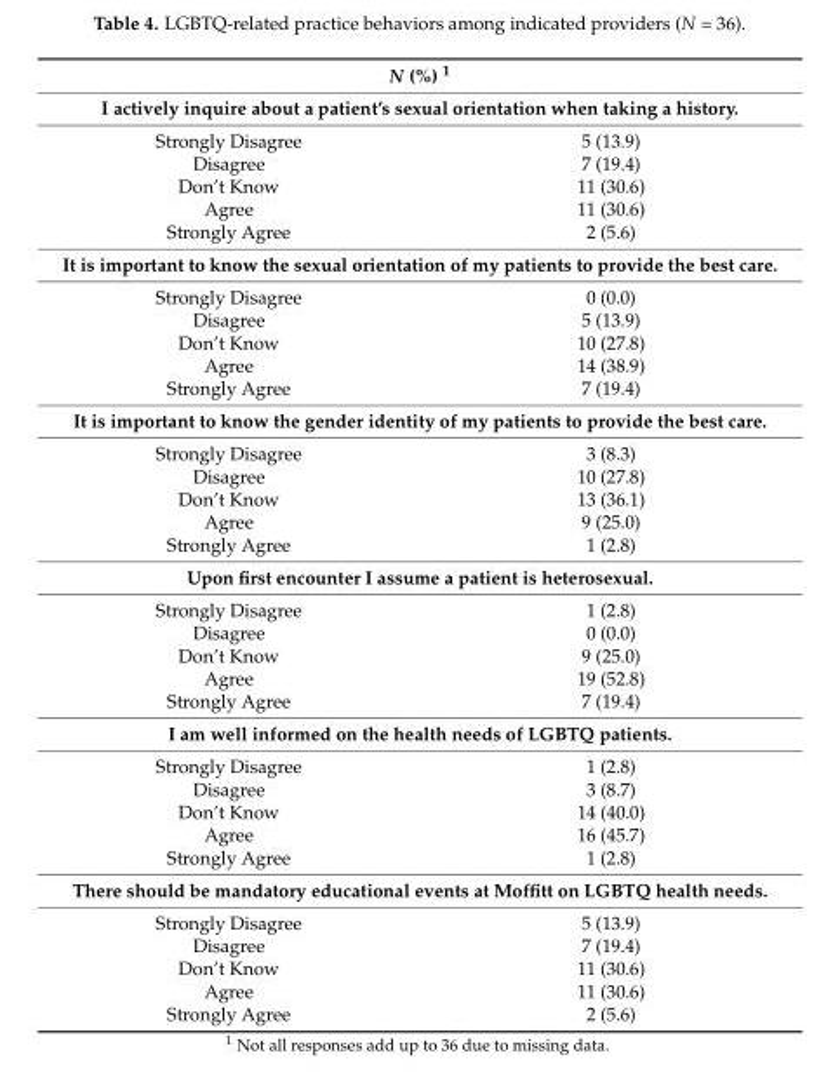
<table><thead><tr><td rowspan="2" colspan="2">N (%) <sup>1</sup> I actively inquire about a patient’s sexual orientation when taking a history.</td></tr><tr></tr><tr><td>Strongly Disagree</td><td>5 (13.9)</td></tr></thead><tbody><tr><td>Disagree</td><td>7 (19.4)</td></tr><tr><td>Don’t Know</td><td>11 (30.6)</td></tr><tr><td>Agree</td><td>11 (30.6)</td></tr><tr><td>Strongly Agree</td><td>2 (5.6)</td></tr><tr><td colspan="2">It is important to know the sexual orientation of my patients to provide the best care.</td></tr><tr><td>Strongly Disagree</td><td>0 (0.0)</td></tr><tr><td>Disagree</td><td>5 (13.9)</td></tr><tr><td>Don’t Know</td><td>10 (27.8)</td></tr><tr><td>Agree</td><td>14 (38.9)</td></tr><tr><td>Strongly Agree</td><td>7 (19.4)</td></tr><tr><td colspan="2">It is important to know the gender identity of my patients to provide the best care.</td></tr><tr><td>Strongly Disagree</td><td>3 (8.3)</td></tr><tr><td>Disagree</td><td>10 (27.8)</td></tr><tr><td>Don’t Know</td><td>13 (36.1)</td></tr><tr><td>Agree</td><td>9 (25.0)</td></tr><tr><td>Strongly Agree</td><td>1 (2.8)</td></tr><tr><td colspan="2">Upon first encounter I assume a patient is heterosexual.</td></tr><tr><td>Strongly Disagree</td><td>1 (2.8)</td></tr><tr><td>Disagree</td><td>0 (0.0)</td></tr><tr><td>Don’t Know</td><td>9 (25.0)</td></tr><tr><td>Agree</td><td>19 (52.8)</td></tr><tr><td>Strongly Agree</td><td>7 (19.4)</td></tr><tr><td colspan="2">I am well informed on the health needs of LGBTQ patients.</td></tr><tr><td>Strongly Disagree</td><td>1 (2.8)</td></tr><tr><td>Disagree</td><td>3 (8.7)</td></tr><tr><td>Don’t Know</td><td>14 (40.0)</td></tr><tr><td>Agree</td><td>16 (45.7)</td></tr><tr><td>Strongly Agree</td><td>1 (2.8)</td></tr><tr><td colspan="2">There should be mandatory educational events at Moffitt on LGBTQ health needs.</td></tr><tr><td>Strongly Disagree</td><td>5 (13.9)</td></tr><tr><td>Disagree</td><td>7 (19.4)</td></tr><tr><td>Don’t Know</td><td>11 (30.6)</td></tr><tr><td>Agree</td><td>11 (30.6)</td></tr><tr><td>Strongly Agree</td><td>2 (5.6)</td></tr></tbody></table>